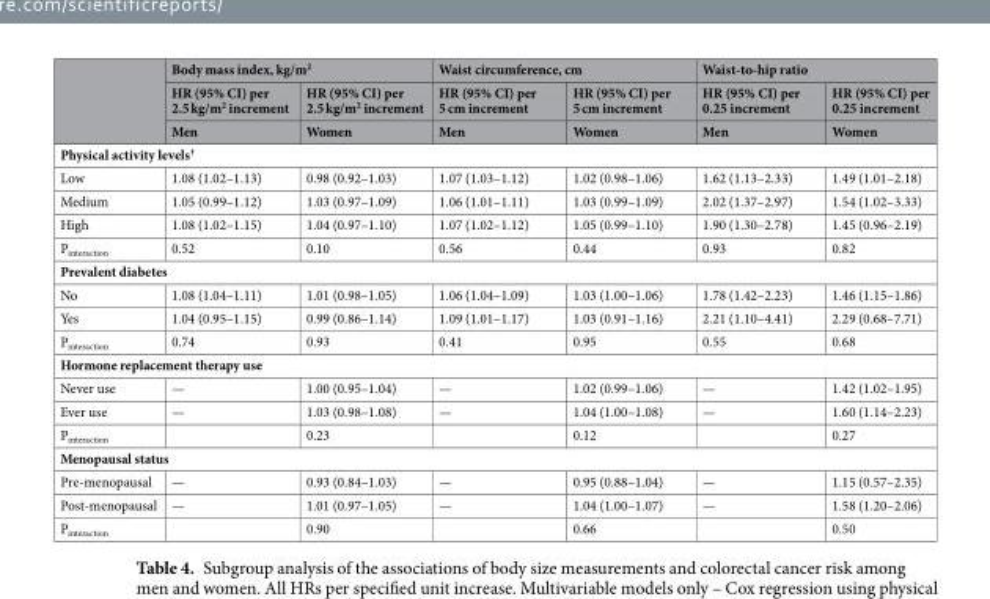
<table><thead><tr><td rowspan="3"></td><td colspan="2">Body mass index, kg/m<sup>2</sup></td><td colspan="2">Waist circumference, cm</td><td colspan="2">Waist-to-hip ratio</td></tr><tr><td rowspan="2">HR (95% CI) per 2.5 kg/m<sup>2</sup> increment Men</td><td rowspan="2">HR (95% CI) per 2.5 kg/m<sup>2</sup> increment Women</td><td rowspan="2">HR (95% CI) per 5 cm increment Men</td><td rowspan="2">HR (95% CI) per 5 cm increment Women</td><td rowspan="2">HR (95% CI) per 0.25 increment Men</td><td rowspan="2">HR (95% CI) per 0.25 increment Women</td></tr><tr></tr></thead><tbody><tr><td colspan="7">Physical activity levels<sup>†</sup></td></tr><tr><td>Low</td><td>1.08 (1.02–1.13)</td><td>0.98 (0.92–1.03)</td><td>1.07 (1.03–1.12)</td><td>1.02 (0.98–1.06)</td><td>1.62 (1.13–2.33)</td><td>1.49 (1.01–2.18)</td></tr><tr><td>Medium</td><td>1.05 (0.99–1.12)</td><td>1.03 (0.97–1.09)</td><td>1.06 (1.01–1.11)</td><td>1.03 (0.99–1.09)</td><td>2.02 (1.37–2.97)</td><td>1.54 (1.02–3.33)</td></tr><tr><td>High</td><td>1.08 (1.02–1.15)</td><td>1.04 (0.97–1.10)</td><td>1.07 (1.02–1.12)</td><td>1.05 (0.99–1.10)</td><td>1.90 (1.30–2.78)</td><td>1.45 (0.96–2.19)</td></tr><tr><td>P<sub>interaction</sub></td><td>0.52</td><td>0.10</td><td>0.56</td><td>0.44</td><td>0.93</td><td>0.82</td></tr><tr><td colspan="7">Prevalent diabetes</td></tr><tr><td>No</td><td>1.08 (1.04–1.11)</td><td>1.01 (0.98–1.05)</td><td>1.06 (1.04–1.09)</td><td>1.03 (1.00–1.06)</td><td>1.78 (1.42–2.23)</td><td>1.46 (1.15–1.86)</td></tr><tr><td>Yes</td><td>1.04 (0.95–1.15)</td><td>0.99 (0.86–1.14)</td><td>1.09 (1.01–1.17)</td><td>1.03 (0.91–1.16)</td><td>2.21 (1.10–4.41)</td><td>2.29 (0.68–7.71)</td></tr><tr><td>P<sub>interaction</sub></td><td>0.74</td><td>0.93</td><td>0.41</td><td>0.95</td><td>0.55</td><td>0.68</td></tr><tr><td colspan="7">Hormone replacement therapy use</td></tr><tr><td>Never use</td><td>—</td><td>1.00 (0.95–1.04)</td><td>—</td><td>1.02 (0.99–1.06)</td><td>—</td><td>1.42 (1.02–1.95)</td></tr><tr><td>Ever use</td><td>—</td><td>1.03 (0.98–1.08)</td><td>—</td><td>1.04 (1.00–1.08)</td><td>—</td><td>1.60 (1.14–2.23)</td></tr><tr><td>P<sub>interaction</sub></td><td></td><td>0.23</td><td></td><td>0.12</td><td></td><td>0.27</td></tr><tr><td colspan="7">Menopausal status</td></tr><tr><td>Pre-menopausal</td><td>—</td><td>0.93 (0.84–1.03)</td><td>—</td><td>0.95 (0.88–1.04)</td><td>—</td><td>1.15 (0.57–2.35)</td></tr><tr><td>Post-menopausal</td><td>—</td><td>1.01 (0.97–1.05)</td><td>—</td><td>1.04 (1.00–1.07)</td><td>—</td><td>1.58 (1.20–2.06)</td></tr><tr><td>P<sub>interaction</sub></td><td></td><td>0.90</td><td></td><td>0.66</td><td></td><td>0.50</td></tr></tbody></table>